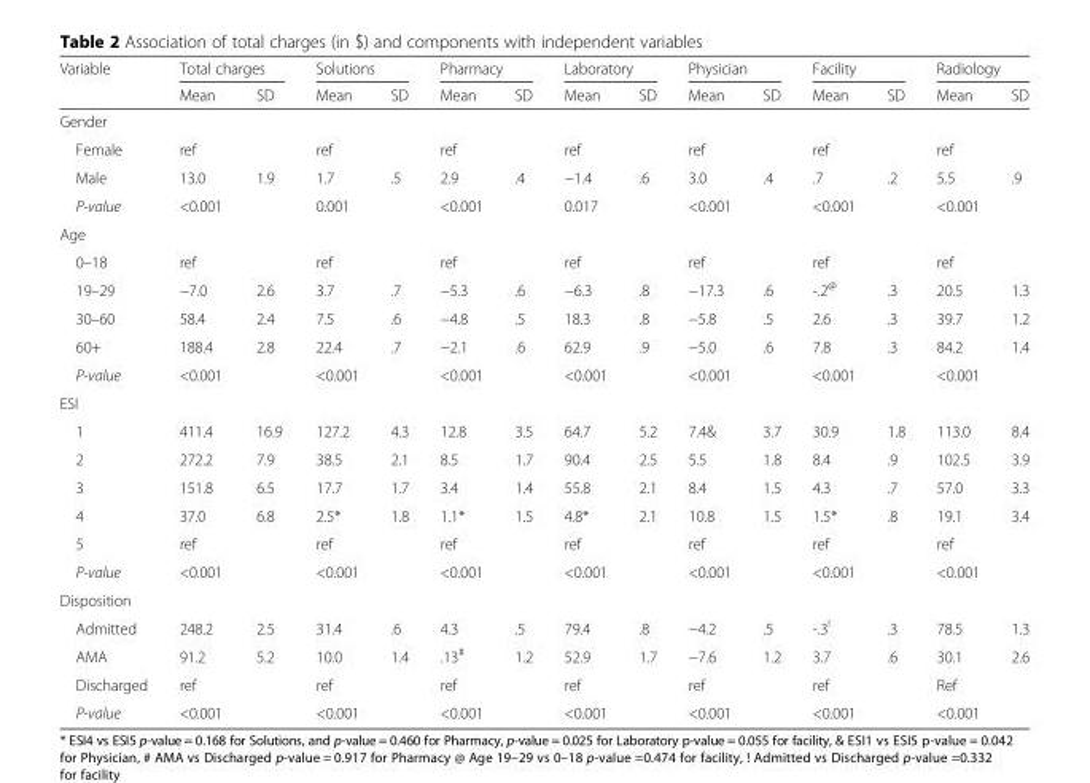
<table><thead><tr><td rowspan="2">Variable</td><td colspan="2">Total charges</td><td colspan="2">Solutions</td><td colspan="2">Pharmacy</td><td colspan="2">Laboratory</td><td colspan="2">Physician</td><td colspan="2">Facility</td><td colspan="2">Radiology</td></tr><tr><td>Mean</td><td>SD</td><td>Mean</td><td>SD</td><td>Mean</td><td>SD</td><td>Mean</td><td>SD</td><td>Mean</td><td>SD</td><td>Mean</td><td>SD</td><td>Mean</td><td>SD</td></tr></thead><tbody><tr><td colspan="15">Gender</td></tr><tr><td>Female</td><td>ref</td><td></td><td>ref</td><td></td><td>ref</td><td></td><td>ref</td><td></td><td>ref</td><td></td><td>ref</td><td></td><td>ref</td><td></td></tr><tr><td>Male</td><td>13.0</td><td>1.9</td><td>1.7</td><td>.5</td><td>2.9</td><td>.4</td><td>−1.4</td><td>.6</td><td>3.0</td><td>.4</td><td>.7</td><td>.2</td><td>5.5</td><td>.9</td></tr><tr><td>P-value</td><td>&lt;0.001</td><td></td><td>0.001</td><td></td><td>&lt;0.001</td><td></td><td>0.017</td><td></td><td>&lt;0.001</td><td></td><td>&lt;0.001</td><td></td><td>&lt;0.001</td><td></td></tr><tr><td colspan="15">Age</td></tr><tr><td>0–18</td><td>ref</td><td></td><td>ref</td><td></td><td>ref</td><td></td><td>ref</td><td></td><td>ref</td><td></td><td>ref</td><td></td><td>ref</td><td></td></tr><tr><td>19–29</td><td>−7.0</td><td>2.6</td><td>3.7</td><td>.7</td><td>−5.3</td><td>.6</td><td>−6.3</td><td>.8</td><td>−17.3</td><td>.6</td><td>-.2<sup>@</sup></td><td>.3</td><td>20.5</td><td>1.3</td></tr><tr><td>30–60</td><td>58.4</td><td>2.4</td><td>7.5</td><td>.6</td><td>−4.8</td><td>.5</td><td>18.3</td><td>.8</td><td>−5.8</td><td>.5</td><td>2.6</td><td>.3</td><td>39.7</td><td>1.2</td></tr><tr><td>60+</td><td>188.4</td><td>2.8</td><td>22.4</td><td>.7</td><td>−2.1</td><td>.6</td><td>62.9</td><td>.9</td><td>−5.0</td><td>.6</td><td>7.8</td><td>.3</td><td>84.2</td><td>1.4</td></tr><tr><td>P-value</td><td>&lt;0.001</td><td></td><td>&lt;0.001</td><td></td><td>&lt;0.001</td><td></td><td>&lt;0.001</td><td></td><td>&lt;0.001</td><td></td><td>&lt;0.001</td><td></td><td>&lt;0.001</td><td></td></tr><tr><td colspan="15">ESI</td></tr><tr><td>1</td><td>411.4</td><td>16.9</td><td>127.2</td><td>4.3</td><td>12.8</td><td>3.5</td><td>64.7</td><td>5.2</td><td>7.4&amp;</td><td>3.7</td><td>30.9</td><td>1.8</td><td>113.0</td><td>8.4</td></tr><tr><td>2</td><td>272.2</td><td>7.9</td><td>38.5</td><td>2.1</td><td>8.5</td><td>1.7</td><td>90.4</td><td>2.5</td><td>5.5</td><td>1.8</td><td>8.4</td><td>.9</td><td>102.5</td><td>3.9</td></tr><tr><td>3</td><td>151.8</td><td>6.5</td><td>17.7</td><td>1.7</td><td>3.4</td><td>1.4</td><td>55.8</td><td>2.1</td><td>8.4</td><td>1.5</td><td>4.3</td><td>.7</td><td>57.0</td><td>3.3</td></tr><tr><td>4</td><td>37.0</td><td>6.8</td><td>2.5*</td><td>1.8</td><td>1.1*</td><td>1.5</td><td>4.8*</td><td>2.1</td><td>10.8</td><td>1.5</td><td>1.5*</td><td>.8</td><td>19.1</td><td>3.4</td></tr><tr><td>5</td><td>ref</td><td></td><td>ref</td><td></td><td>ref</td><td></td><td>ref</td><td></td><td>ref</td><td></td><td>ref</td><td></td><td>ref</td><td></td></tr><tr><td>P-value</td><td>&lt;0.001</td><td></td><td>&lt;0.001</td><td></td><td>&lt;0.001</td><td></td><td>&lt;0.001</td><td></td><td>&lt;0.001</td><td></td><td>&lt;0.001</td><td></td><td>&lt;0.001</td><td></td></tr><tr><td colspan="15">Disposition</td></tr><tr><td>Admitted</td><td>248.2</td><td>2.5</td><td>31.4</td><td>.6</td><td>4.3</td><td>.5</td><td>79.4</td><td>.8</td><td>−4.2</td><td>.5</td><td>-.3<sup>!</sup></td><td>.3</td><td>78.5</td><td>1.3</td></tr><tr><td>AMA</td><td>91.2</td><td>5.2</td><td>10.0</td><td>1.4</td><td>.13<sup>#</sup></td><td>1.2</td><td>52.9</td><td>1.7</td><td>−7.6</td><td>1.2</td><td>3.7</td><td>.6</td><td>30.1</td><td>2.6</td></tr><tr><td>Discharged</td><td>ref</td><td></td><td>ref</td><td></td><td>ref</td><td></td><td>ref</td><td></td><td>ref</td><td></td><td>ref</td><td></td><td>Ref</td><td></td></tr><tr><td>P-value</td><td>&lt;0.001</td><td></td><td>&lt;0.001</td><td></td><td>&lt;0.001</td><td></td><td>&lt;0.001</td><td></td><td>&lt;0.001</td><td></td><td>&lt;0.001</td><td></td><td>&lt;0.001</td><td></td></tr></tbody></table>